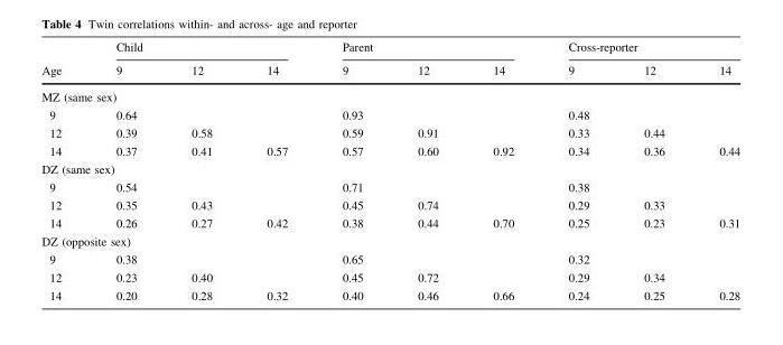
<table><thead><tr><td rowspan="2">Age</td><td colspan="3">Child</td><td colspan="3">Parent</td><td colspan="3">Cross-reporter</td></tr><tr><td>9</td><td>12</td><td>14</td><td>9</td><td>12</td><td>14</td><td>9</td><td>12</td><td>14</td></tr></thead><tbody><tr><td colspan="10">MZ (same sex)</td></tr><tr><td>9</td><td>0.64</td><td></td><td></td><td>0.93</td><td></td><td></td><td>0.48</td><td></td><td></td></tr><tr><td>12</td><td>0.39</td><td>0.58</td><td></td><td>0.59</td><td>0.91</td><td></td><td>0.33</td><td>0.44</td><td></td></tr><tr><td>14</td><td>0.37</td><td>0.41</td><td>0.57</td><td>0.57</td><td>0.60</td><td>0.92</td><td>0.34</td><td>0.36</td><td>0.44</td></tr><tr><td colspan="10">DZ (same sex)</td></tr><tr><td>9</td><td>0.54</td><td></td><td></td><td>0.71</td><td></td><td></td><td>0.38</td><td></td><td></td></tr><tr><td>12</td><td>0.35</td><td>0.43</td><td></td><td>0.45</td><td>0.74</td><td></td><td>0.29</td><td>0.33</td><td></td></tr><tr><td>14</td><td>0.26</td><td>0.27</td><td>0.42</td><td>0.38</td><td>0.44</td><td>0.70</td><td>0.25</td><td>0.23</td><td>0.31</td></tr><tr><td colspan="10">DZ (opposite sex)</td></tr><tr><td>9</td><td>0.38</td><td></td><td></td><td>0.65</td><td></td><td></td><td>0.32</td><td></td><td></td></tr><tr><td>12</td><td>0.23</td><td>0.40</td><td></td><td>0.45</td><td>0.72</td><td></td><td>0.29</td><td>0.34</td><td></td></tr><tr><td>14</td><td>0.20</td><td>0.28</td><td>0.32</td><td>0.40</td><td>0.46</td><td>0.66</td><td>0.24</td><td>0.25</td><td>0.28</td></tr></tbody></table>